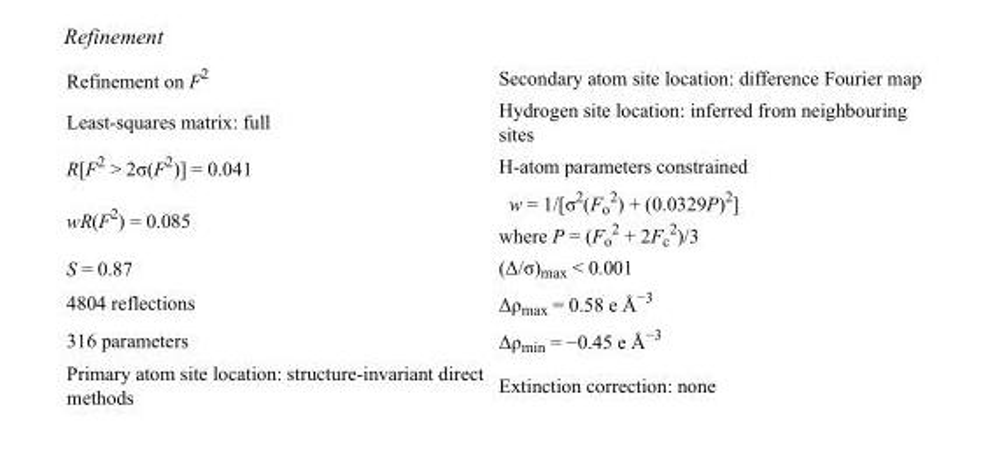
<table><tbody><tr><td>Refinement on F<sup>2</sup></td><td>Secondary atom site location: difference Fourier map</td></tr><tr><td>Least-squares matrix: full</td><td>Hydrogen site location: inferred from neighbouring sites</td></tr><tr><td>R[F<sup>2</sup> &gt; 2σ(F<sup>2</sup>)] = 0.041</td><td>H-atom parameters constrained</td></tr><tr><td>wR(F<sup>2</sup>) = 0.085</td><td>w = 1/[σ<sup>2</sup>(F<sub>o</sub> <sup>2</sup>) + (0.0329P)<sup>2</sup>] where P = (F<sub>o</sub> <sup>2</sup> + 2F<sub>c</sub> <sup>2</sup>)/3</td></tr><tr><td>S = 0.87</td><td>(Δ/σ)<sub>max</sub> &lt; 0.001</td></tr><tr><td>4804 reflections</td><td>Δρ<sub>max</sub> = 0.58 e Å<sup>−3</sup></td></tr><tr><td>316 parameters</td><td>Δρ<sub>min</sub> = −0.45 e Å<sup>−3</sup></td></tr><tr><td>Primary atom site location: structure-invariant direct methods</td><td>Extinction correction: none</td></tr></tbody></table>